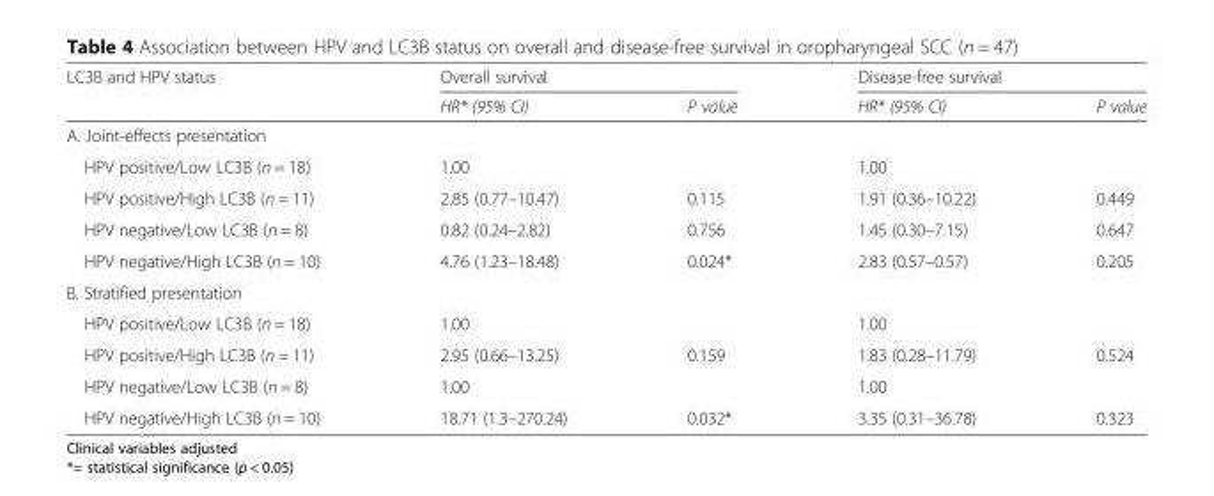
<table><thead><tr><td rowspan="2">LC3B and HPV status</td><td colspan="2">Overall survival</td><td colspan="2">Disease-free survival</td></tr><tr><td>HR* (95% CI)</td><td>P value</td><td>HR* (95% CI)</td><td>P value</td></tr></thead><tbody><tr><td colspan="5">A. Joint-effects presentation</td></tr><tr><td>HPV positive/Low LC3B (n = 18)</td><td>1.00</td><td></td><td>1.00</td><td></td></tr><tr><td>HPV positive/High LC3B (n = 11)</td><td>2.85 (0.77–10.47)</td><td>0.115</td><td>1.91 (0.36–10.22)</td><td>0.449</td></tr><tr><td>HPV negative/Low LC3B (n = 8)</td><td>0.82 (0.24–2.82)</td><td>0.756</td><td>1.45 (0.30–7.15)</td><td>0.647</td></tr><tr><td>HPV negative/High LC3B (n = 10)</td><td>4.76 (1.23–18.48)</td><td>0.024*</td><td>2.83 (0.57–0.57)</td><td>0.205</td></tr><tr><td colspan="5">B. Stratified presentation</td></tr><tr><td>HPV positive/Low LC3B (n = 18)</td><td>1.00</td><td></td><td>1.00</td><td></td></tr><tr><td>HPV positive/High LC3B (n = 11)</td><td>2.95 (0.66–13.25)</td><td>0.159</td><td>1.83 (0.28–11.79)</td><td>0.524</td></tr><tr><td>HPV negative/Low LC3B (n = 8)</td><td>1.00</td><td></td><td>1.00</td><td></td></tr><tr><td>HPV negative/High LC3B (n = 10)</td><td>18.71 (1.3–270.24)</td><td>0.032*</td><td>3.35 (0.31–36.78)</td><td>0.323</td></tr></tbody></table>